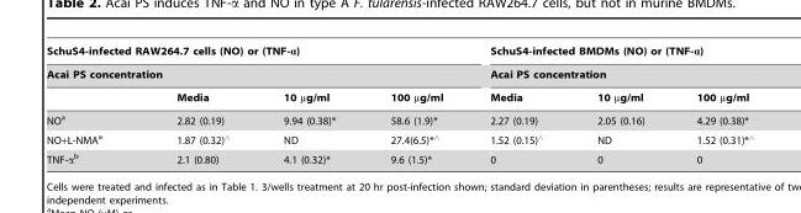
<table><thead><tr><td rowspan="2" colspan="4">SchuS4-infected RAW264.7 cells (NO) or (TNF-α) Acai PS concentration</td><td rowspan="2" colspan="3">SchuS4-infected BMDMs (NO) or (TNF-α) Acai PS concentration</td></tr><tr></tr><tr><td></td><td>Media</td><td>10 µg/ml</td><td>100 µg/ml</td><td>Media</td><td>10 µg/ml</td><td>100 µg/ml</td></tr></thead><tbody><tr><td>NO<sup>a</sup></td><td>2.82 (0.19)</td><td>9.94 (0.38)*</td><td>58.6 (1.9)*</td><td>2.27 (0.19)</td><td>2.05 (0.16)</td><td>4.29 (0.38)*</td></tr><tr><td>NO+L-NMA<sup>a</sup></td><td>1.87 (0.32)‘</td><td>ND</td><td>27.4(6.5)*‘</td><td>1.52 (0.15)‘</td><td>ND</td><td>1.52 (0.31)*‘</td></tr><tr><td>TNF-α<sup>b</sup></td><td>2.1 (0.80)</td><td>4.1 (0.32)*</td><td>9.6 (1.5)*</td><td>0</td><td>0</td><td>0</td></tr></tbody></table>